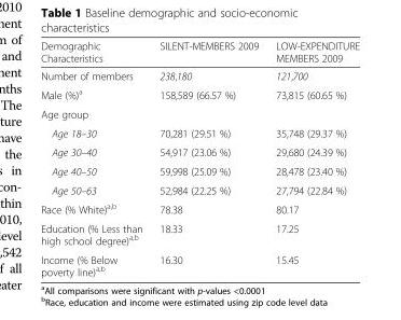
<table><thead><tr><td>Demographic Characteristics</td><td>SILENT-MEMBERS 2009</td><td>LOW-EXPENDITURE MEMBERS 2009</td></tr></thead><tbody><tr><td>Number of members</td><td>238,180</td><td>121,700</td></tr><tr><td>Male (%)<sup>a</sup></td><td>158,589 (66.57 %)</td><td>73,815 (60.65 %)</td></tr><tr><td colspan="3">Age group</td></tr><tr><td>Age 18–30</td><td>70,281 (29.51 %)</td><td>35,748 (29.37 %)</td></tr><tr><td>Age 30–40</td><td>54,917 (23.06 %)</td><td>29,680 (24.39 %)</td></tr><tr><td>Age 40–50</td><td>59,998 (25.09 %)</td><td>28,478 (23.40 %)</td></tr><tr><td>Age 50–63</td><td>52,984 (22.25 %)</td><td>27,794 (22.84 %)</td></tr><tr><td>Race (% White)<sup>a,b</sup></td><td>78.38</td><td>80.17</td></tr><tr><td>Education (% Less than high school degree)<sup>a,b</sup></td><td>18.33</td><td>17.25</td></tr><tr><td>Income (% Below poverty line)<sup>a,b</sup></td><td>16.30</td><td>15.45</td></tr></tbody></table>